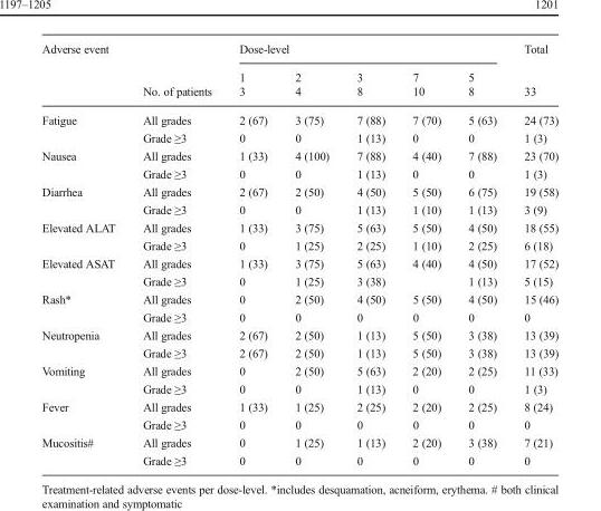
<table><thead><tr><td rowspan="3">Adverse event</td><td rowspan="3">No. of patients</td><td colspan="5">Dose-level</td><td rowspan="3">Total 33</td></tr><tr><td rowspan="2">1 3</td><td rowspan="2">2 4</td><td rowspan="2">3 8</td><td rowspan="2">7 10</td><td rowspan="2">5 8</td></tr><tr></tr></thead><tbody><tr><td rowspan="2">Fatigue</td><td>All grades</td><td>2 (67)</td><td>3 (75)</td><td>7 (88)</td><td>7 (70)</td><td>5 (63)</td><td>24 (73)</td></tr><tr><td>Grade ≥3</td><td>0</td><td>0</td><td>1 (13)</td><td>0</td><td>0</td><td>1 (3)</td></tr><tr><td rowspan="2">Nausea</td><td>All grades</td><td>1 (33)</td><td>4 (100)</td><td>7 (88)</td><td>4 (40)</td><td>7 (88)</td><td>23 (70)</td></tr><tr><td>Grade ≥3</td><td>0</td><td>0</td><td>1 (13)</td><td>0</td><td>0</td><td>1 (3)</td></tr><tr><td rowspan="2">Diarrhea</td><td>All grades</td><td>2 (67)</td><td>2 (50)</td><td>4 (50)</td><td>5 (50)</td><td>6 (75)</td><td>19 (58)</td></tr><tr><td>Grade ≥3</td><td>0</td><td>0</td><td>1 (13)</td><td>1 (10)</td><td>1 (13)</td><td>3 (9)</td></tr><tr><td rowspan="2">Elevated ALAT</td><td>All grades</td><td>1 (33)</td><td>3 (75)</td><td>5 (63)</td><td>5 (50)</td><td>4 (50)</td><td>18 (55)</td></tr><tr><td>Grade ≥3</td><td>0</td><td>1 (25)</td><td>2 (25)</td><td>1 (10)</td><td>2 (25)</td><td>6 (18)</td></tr><tr><td rowspan="2">Elevated ASAT</td><td>All grades</td><td>1 (33)</td><td>3 (75)</td><td>5 (63)</td><td>4 (40)</td><td>4 (50)</td><td>17 (52)</td></tr><tr><td>Grade ≥3</td><td>0</td><td>1 (25)</td><td>3 (38)</td><td></td><td>1 (13)</td><td>5 (15)</td></tr><tr><td rowspan="2">Rash*</td><td>All grades</td><td>0</td><td>2 (50)</td><td>4 (50)</td><td>5 (50)</td><td>4 (50)</td><td>15 (46)</td></tr><tr><td>Grade ≥3</td><td>0</td><td>0</td><td>0</td><td>0</td><td>0</td><td>0</td></tr><tr><td rowspan="2">Neutropenia</td><td>All grades</td><td>2 (67)</td><td>2 (50)</td><td>1 (13)</td><td>5 (50)</td><td>3 (38)</td><td>13 (39)</td></tr><tr><td>Grade ≥3</td><td>2 (67)</td><td>2 (50)</td><td>1 (13)</td><td>5 (50)</td><td>3 (38)</td><td>13 (39)</td></tr><tr><td rowspan="2">Vomiting</td><td>All grades</td><td>0</td><td>2 (50)</td><td>5 (63)</td><td>2 (20)</td><td>2 (25)</td><td>11 (33)</td></tr><tr><td>Grade ≥3</td><td>0</td><td>0</td><td>1 (13)</td><td>0</td><td>0</td><td>1 (3)</td></tr><tr><td rowspan="2">Fever</td><td>All grades</td><td>1 (33)</td><td>1 (25)</td><td>2 (25)</td><td>2 (20)</td><td>2 (25)</td><td>8 (24)</td></tr><tr><td>Grade ≥3</td><td>0</td><td>0</td><td>0</td><td>0</td><td>0</td><td>0</td></tr><tr><td rowspan="2">Mucositis#</td><td>All grades</td><td>0</td><td>1 (25)</td><td>1 (13)</td><td>2 (20)</td><td>3 (38)</td><td>7 (21)</td></tr><tr><td>Grade ≥3</td><td>0</td><td>0</td><td>0</td><td>0</td><td>0</td><td>0</td></tr></tbody></table>